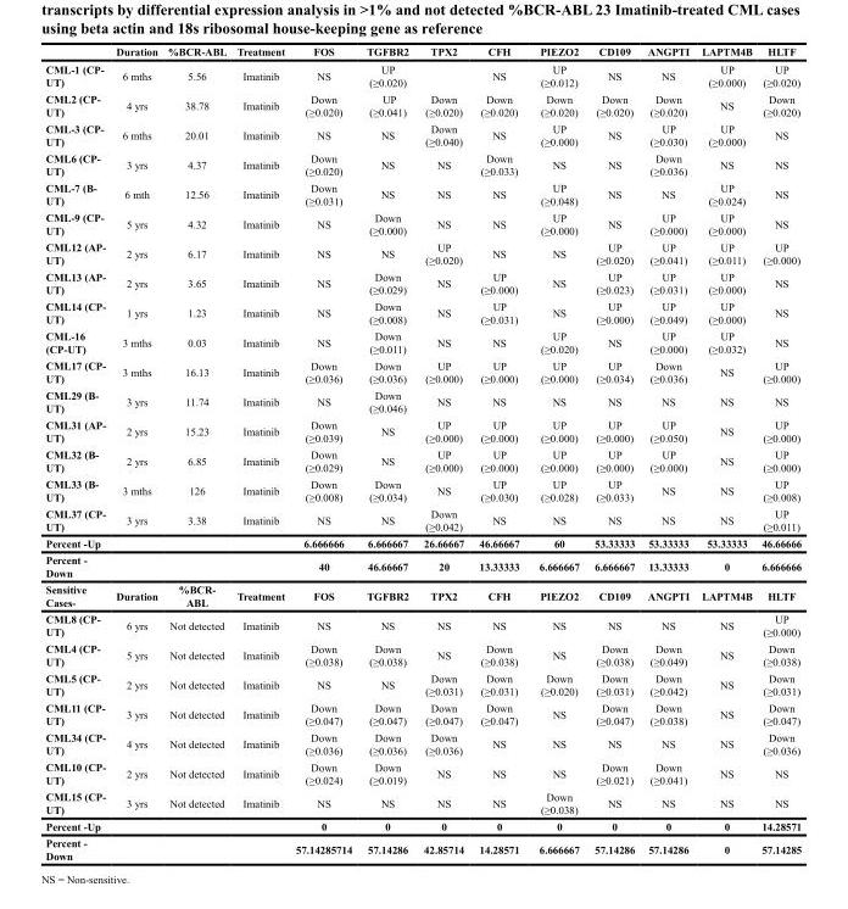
<table><thead><tr><td></td><td>Duration</td><td>%BCR-ABL</td><td>Treatment</td><td>FOS</td><td>TGFBR2</td><td>TPX2</td><td>CFH</td><td>PIEZO2</td><td>CD109</td><td>ANGPTI</td><td>LAPTM4B</td><td>HLTF</td></tr></thead><tbody><tr><td>CML-1 (CP- UT)</td><td>6 mths</td><td>5.56</td><td>Imatinib</td><td>NS</td><td>UP (≥0.020)</td><td></td><td>NS</td><td>UP (≥0.012)</td><td>NS</td><td>NS</td><td>UP (≥0.000)</td><td>UP (≥0.020)</td></tr><tr><td>CML2 (CP- UT)</td><td>4 yrs</td><td>38.78</td><td>Imatinib</td><td>Down (≥0.020)</td><td>UP (≥0.041)</td><td>Down (≥0.020)</td><td>Down (≥0.020)</td><td>Down (≥0.020)</td><td>Down (≥0.020)</td><td>Down (≥0.020)</td><td>NS</td><td>Down (≥0.020)</td></tr><tr><td>CML-3 (CP- UT)</td><td>6 mths</td><td>20.01</td><td>Imatinib</td><td>NS</td><td>NS</td><td>Down (≥0.040)</td><td>NS</td><td>UP (≥0.000)</td><td>NS</td><td>UP (≥0.030)</td><td>UP (≥0.000)</td><td>NS</td></tr><tr><td>CML6 (CP- UT)</td><td>3 yrs</td><td>4.37</td><td>Imatinib</td><td>Down (≥0.020)</td><td>NS</td><td>NS</td><td>Down (≥0.033)</td><td>NS</td><td>NS</td><td>Down (≥0.036)</td><td>NS</td><td>NS</td></tr><tr><td>CML-7 (B- UT)</td><td>6 mth</td><td>12.56</td><td>Imatinib</td><td>Down (≥0.031)</td><td>NS</td><td>NS</td><td>NS</td><td>UP (≥0.048)</td><td>NS</td><td>NS</td><td>UP (≥0.024)</td><td>NS</td></tr><tr><td>CML-9 (CP- UT)</td><td>5 yrs</td><td>4.32</td><td>Imatinib</td><td>NS</td><td>Down (≥0.000)</td><td>NS</td><td>NS</td><td>UP (≥0.000)</td><td>NS</td><td>UP (≥0.000)</td><td>UP (≥0.000)</td><td>NS</td></tr><tr><td>CML12 (AP- UT)</td><td>2 yrs</td><td>6.17</td><td>Imatinib</td><td>NS</td><td>NS</td><td>UP (≥0.020)</td><td>NS</td><td>NS</td><td>UP (≥0.020)</td><td>UP (≥0.041)</td><td>UP (≥0.011)</td><td>UP (≥0.000)</td></tr><tr><td>CML13 (AP- UT)</td><td>2 yrs</td><td>3.65</td><td>Imatinib</td><td>NS</td><td>Down (≥0.029)</td><td>NS</td><td>UP (≥0.000)</td><td>NS</td><td>UP (≥0.023)</td><td>UP (≥0.031)</td><td>UP (≥0.000)</td><td>NS</td></tr><tr><td>CML14 (CP- UT)</td><td>1 yrs</td><td>1.23</td><td>Imatinib</td><td>NS</td><td>Down (≥0.008)</td><td>NS</td><td>UP (≥0.031)</td><td>NS</td><td>UP (≥0.000)</td><td>UP (≥0.049)</td><td>UP (≥0.000)</td><td>NS</td></tr><tr><td>CML-16 (CP-UT)</td><td>3 mths</td><td>0.03</td><td>Imatinib</td><td>NS</td><td>Down (≥0.011)</td><td>NS</td><td>NS</td><td>UP (≥0.020)</td><td>NS</td><td>UP (≥0.000)</td><td>UP (≥0.032)</td><td>NS</td></tr><tr><td>CML17 (CP- UT)</td><td>3 mths</td><td>16.13</td><td>Imatinib</td><td>Down (≥0.036)</td><td>Down (≥0.036)</td><td>UP (≥0.000)</td><td>UP (≥0.000)</td><td>UP (≥0.000)</td><td>UP (≥0.034)</td><td>Down (≥0.036)</td><td>NS</td><td>UP (≥0.000)</td></tr><tr><td>CML29 (B- UT)</td><td>3 yrs</td><td>11.74</td><td>Imatinib</td><td>NS</td><td>Down (≥0.046)</td><td>NS</td><td>NS</td><td>NS</td><td>NS</td><td>NS</td><td>NS</td><td>NS</td></tr><tr><td>CML31 (AP- UT)</td><td>2 yrs</td><td>15.23</td><td>Imatinib</td><td>Down (≥0.039)</td><td>NS</td><td>UP (≥0.000)</td><td>UP (≥0.000)</td><td>UP (≥0.000)</td><td>UP (≥0.000)</td><td>UP (≥0.050)</td><td>NS</td><td>UP (≥0.000)</td></tr><tr><td>CML32 (B- UT)</td><td>2 yrs</td><td>6.85</td><td>Imatinib</td><td>Down (≥0.029)</td><td>NS</td><td>UP (≥0.000)</td><td>UP (≥0.000)</td><td>UP (≥0.000)</td><td>UP (≥0.000)</td><td>UP (≥0.000)</td><td>NS</td><td>UP (≥0.000)</td></tr><tr><td>CML33 (B- UT)</td><td>3 mths</td><td>126</td><td>Imatinib</td><td>Down (≥0.008)</td><td>Down (≥0.034)</td><td>NS</td><td>UP (≥0.030)</td><td>UP (≥0.028)</td><td>UP (≥0.033)</td><td>NS</td><td>NS</td><td>UP (≥0.008)</td></tr><tr><td>CML37 (CP- UT)</td><td>3 yrs</td><td>3.38</td><td>Imatinib</td><td>NS</td><td>NS</td><td>Down (≥0.042)</td><td>NS</td><td>NS</td><td>NS</td><td>NS</td><td>NS</td><td>UP (≥0.011)</td></tr><tr><td>Percent -Up</td><td></td><td></td><td></td><td>6.666666</td><td>6.666667</td><td>26.66667</td><td>46.66667</td><td>60</td><td>53.33333</td><td>53.33333</td><td>53.33333</td><td>46.66666</td></tr><tr><td>Percent - Down</td><td></td><td></td><td></td><td>40</td><td>46.66667</td><td>20</td><td>13.33333</td><td>6.666667</td><td>6.666667</td><td>13.33333</td><td>0</td><td>6.666666</td></tr><tr><td>Sensitive Cases-</td><td>Duration</td><td>%BCR- ABL</td><td>Treatment</td><td>FOS</td><td>TGFBR2</td><td>TPX2</td><td>CFH</td><td>PIEZO2</td><td>CD109</td><td>ANGPTI</td><td>LAPTM4B</td><td>HLTF</td></tr><tr><td>CML8 (CP- UT)</td><td>6 yrs</td><td>Not detected</td><td>Imatinib</td><td>NS</td><td>NS</td><td>NS</td><td>NS</td><td>NS</td><td>NS</td><td>NS</td><td>NS</td><td>UP (≥0.000)</td></tr><tr><td>CML4 (CP- UT)</td><td>5 yrs</td><td>Not detected</td><td>Imatinib</td><td>Down (≥0.038)</td><td>Down (≥0.038)</td><td>NS</td><td>Down (≥0.038)</td><td>NS</td><td>Down (≥0.038)</td><td>Down (≥0.049)</td><td>NS</td><td>Down (≥0.038)</td></tr><tr><td>CML5 (CP- UT)</td><td>2 yrs</td><td>Not detected</td><td>Imatinib</td><td>NS</td><td>NS</td><td>Down (≥0.031)</td><td>Down (≥0.031)</td><td>Down (≥0.020)</td><td>Down (≥0.031)</td><td>Down (≥0.042)</td><td>NS</td><td>Down (≥0.031)</td></tr><tr><td>CML11 (CP- UT)</td><td>3 yrs</td><td>Not detected</td><td>Imatinib</td><td>Down (≥0.047)</td><td>Down (≥0.047)</td><td>Down (≥0.047)</td><td>Down (≥0.047)</td><td>NS</td><td>Down (≥0.047)</td><td>Down (≥0.038)</td><td>NS</td><td>Down (≥0.047)</td></tr><tr><td>CML34 (CP- UT)</td><td>4 yrs</td><td>Not detected</td><td>Imatinib</td><td>Down (≥0.036)</td><td>Down (≥0.036)</td><td>Down (≥0.036)</td><td>NS</td><td>NS</td><td>NS</td><td>NS</td><td>NS</td><td>Down (≥0.036)</td></tr><tr><td>CML10 (CP- UT)</td><td>2 yrs</td><td>Not detected</td><td>Imatinib</td><td>Down (≥0.024)</td><td>Down (≥0.019)</td><td>NS</td><td>NS</td><td>NS</td><td>Down (≥0.021)</td><td>Down (≥0.041)</td><td>NS</td><td>NS</td></tr><tr><td>CML15 (CP- UT)</td><td>3 yrs</td><td>Not detected</td><td>Imatinib</td><td>NS</td><td>NS</td><td>NS</td><td>NS</td><td>Down (≥0.038)</td><td>NS</td><td>NS</td><td>NS</td><td>NS</td></tr><tr><td>Percent -Up</td><td></td><td></td><td></td><td>0</td><td>0</td><td>0</td><td>0</td><td>0</td><td>0</td><td>0</td><td>0</td><td>14.28571</td></tr><tr><td>Percent - Down</td><td></td><td></td><td></td><td>57.14285714</td><td>57.14286</td><td>42.85714</td><td>14.28571</td><td>6.666667</td><td>57.14286</td><td>57.14286</td><td>0</td><td>57.14285</td></tr></tbody></table>